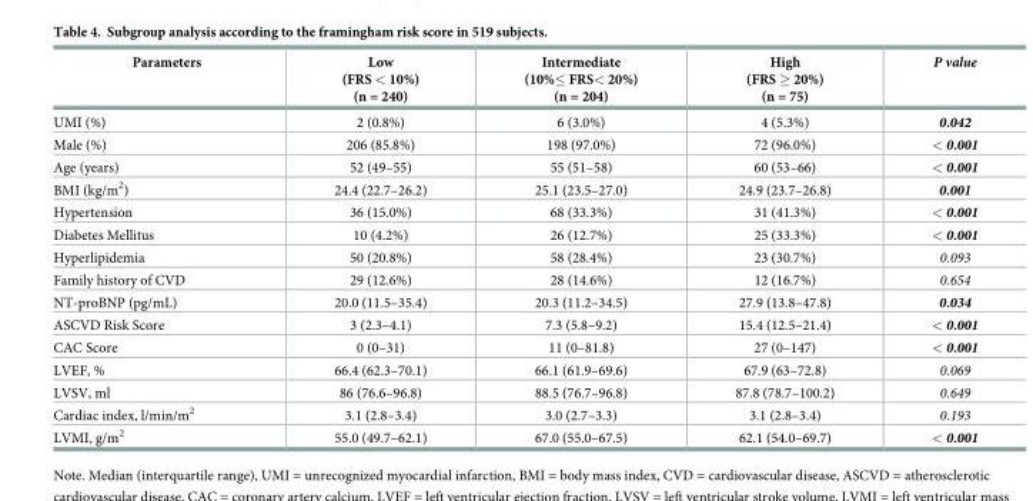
<table><thead><tr><td>Parameters</td><td>Low (FRS &lt; 10%) (n = 240)</td><td>Intermediate (10%≤ FRS&lt; 20%) (n = 204)</td><td>High (FRS ≥ 20%) (n = 75)</td><td>P value</td></tr></thead><tbody><tr><td>UMI (%)</td><td>2 (0.8%)</td><td>6 (3.0%)</td><td>4 (5.3%)</td><td>0.042</td></tr><tr><td>Male (%)</td><td>206 (85.8%)</td><td>198 (97.0%)</td><td>72 (96.0%)</td><td>&lt; 0.001</td></tr><tr><td>Age (years)</td><td>52 (49–55)</td><td>55 (51–58)</td><td>60 (53–66)</td><td>&lt; 0.001</td></tr><tr><td>BMI (kg/m<sup>2</sup>)</td><td>24.4 (22.7–26.2)</td><td>25.1 (23.5–27.0)</td><td>24.9 (23.7–26.8)</td><td>0.001</td></tr><tr><td>Hypertension</td><td>36 (15.0%)</td><td>68 (33.3%)</td><td>31 (41.3%)</td><td>&lt; 0.001</td></tr><tr><td>Diabetes Mellitus</td><td>10 (4.2%)</td><td>26 (12.7%)</td><td>25 (33.3%)</td><td>&lt; 0.001</td></tr><tr><td>Hyperlipidemia</td><td>50 (20.8%)</td><td>58 (28.4%)</td><td>23 (30.7%)</td><td>0.093</td></tr><tr><td>Family history of CVD</td><td>29 (12.6%)</td><td>28 (14.6%)</td><td>12 (16.7%)</td><td>0.654</td></tr><tr><td>NT-proBNP (pg/mL)</td><td>20.0 (11.5–35.4)</td><td>20.3 (11.2–34.5)</td><td>27.9 (13.8–47.8)</td><td>0.034</td></tr><tr><td>ASCVD Risk Score</td><td>3 (2.3–4.1)</td><td>7.3 (5.8–9.2)</td><td>15.4 (12.5–21.4)</td><td>&lt; 0.001</td></tr><tr><td>CAC Score</td><td>0 (0–31)</td><td>11 (0–81.8)</td><td>27 (0–147)</td><td>&lt; 0.001</td></tr><tr><td>LVEF, %</td><td>66.4 (62.3–70.1)</td><td>66.1 (61.9–69.6)</td><td>67.9 (63–72.8)</td><td>0.069</td></tr><tr><td>LVSV, ml</td><td>86 (76.6–96.8)</td><td>88.5 (76.7–96.8)</td><td>87.8 (78.7–100.2)</td><td>0.649</td></tr><tr><td>Cardiac index, l/min/m<sup>2</sup></td><td>3.1 (2.8–3.4)</td><td>3.0 (2.7–3.3)</td><td>3.1 (2.8–3.4)</td><td>0.193</td></tr><tr><td>LVMI, g/m<sup>2</sup></td><td>55.0 (49.7–62.1)</td><td>67.0 (55.0–67.5)</td><td>62.1 (54.0–69.7)</td><td>&lt; 0.001</td></tr></tbody></table>